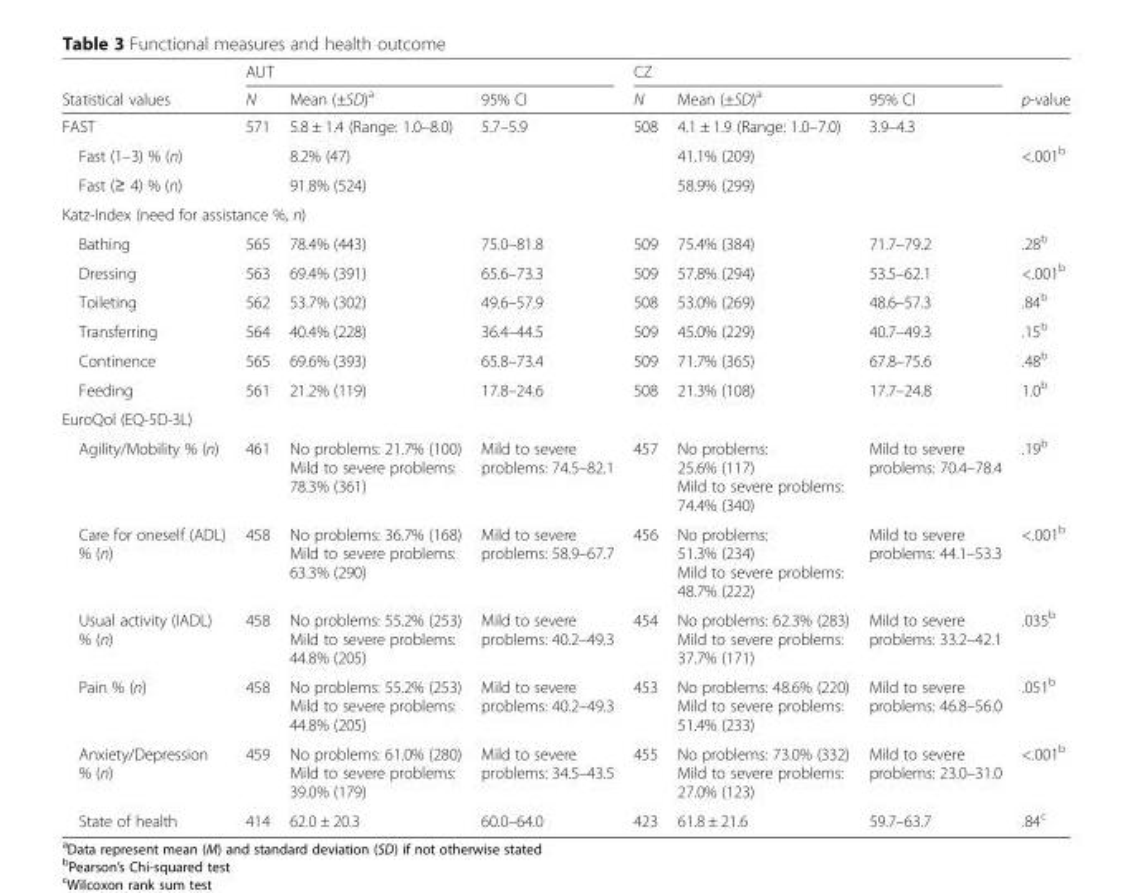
<table><thead><tr><td rowspan="2">Statistical values</td><td colspan="3">AUT</td><td colspan="3">CZ</td><td rowspan="2">p-value</td></tr><tr><td>N</td><td>Mean (±SD)<sup>a</sup></td><td>95% CI</td><td>N</td><td>Mean (±SD)<sup>a</sup></td><td>95% CI</td></tr></thead><tbody><tr><td>FAST</td><td>571</td><td>5.8 ± 1.4 (Range: 1.0–8.0)</td><td>5.7–5.9</td><td>508</td><td>4.1 ± 1.9 (Range: 1.0–7.0)</td><td>3.9–4.3</td><td></td></tr><tr><td>Fast (1–3) % (n)</td><td></td><td>8.2% (47)</td><td></td><td></td><td>41.1% (209)</td><td></td><td rowspan="2">&lt;.001<sup>b</sup></td></tr><tr><td>Fast (≥ 4) % (n)</td><td></td><td>91.8% (524)</td><td></td><td></td><td>58.9% (299)</td><td></td></tr><tr><td colspan="8">Katz-Index (need for assistance %, n)</td></tr><tr><td>Bathing</td><td>565</td><td>78.4% (443)</td><td>75.0–81.8</td><td>509</td><td>75.4% (384)</td><td>71.7–79.2</td><td>.28<sup>b</sup></td></tr><tr><td>Dressing</td><td>563</td><td>69.4% (391)</td><td>65.6–73.3</td><td>509</td><td>57.8% (294)</td><td>53.5–62.1</td><td>&lt;.001<sup>b</sup></td></tr><tr><td>Toileting</td><td>562</td><td>53.7% (302)</td><td>49.6–57.9</td><td>508</td><td>53.0% (269)</td><td>48.6–57.3</td><td>.84<sup>b</sup></td></tr><tr><td>Transferring</td><td>564</td><td>40.4% (228)</td><td>36.4–44.5</td><td>509</td><td>45.0% (229)</td><td>40.7–49.3</td><td>.15<sup>b</sup></td></tr><tr><td>Continence</td><td>565</td><td>69.6% (393)</td><td>65.8–73.4</td><td>509</td><td>71.7% (365)</td><td>67.8–75.6</td><td>.48<sup>b</sup></td></tr><tr><td>Feeding</td><td>561</td><td>21.2% (119)</td><td>17.8–24.6</td><td>508</td><td>21.3% (108)</td><td>17.7–24.8</td><td>1.0<sup>b</sup></td></tr><tr><td colspan="8">EuroQol (EQ-5D-3L)</td></tr><tr><td>Agility/Mobility % (n)</td><td>461</td><td>No problems: 21.7% (100) Mild to severe problems: 78.3% (361)</td><td>Mild to severe problems: 74.5–82.1</td><td>457</td><td>No problems: 25.6% (117) Mild to severe problems: 74.4% (340)</td><td>Mild to severe problems: 70.4–78.4</td><td>.19<sup>b</sup></td></tr><tr><td>Care for oneself (ADL) % (n)</td><td>458</td><td>No problems: 36.7% (168) Mild to severe problems: 63.3% (290)</td><td>Mild to severe problems: 58.9–67.7</td><td>456</td><td>No problems: 51.3% (234) Mild to severe problems: 48.7% (222)</td><td>Mild to severe problems: 44.1–53.3</td><td>&lt;.001<sup>b</sup></td></tr><tr><td>Usual activity (IADL) % (n)</td><td>458</td><td>No problems: 55.2% (253) Mild to severe problems: 44.8% (205)</td><td>Mild to severe problems: 40.2–49.3</td><td>454</td><td>No problems: 62.3% (283) Mild to severe problems: 37.7% (171)</td><td>Mild to severe problems: 33.2–42.1</td><td>.035<sup>b</sup></td></tr><tr><td>Pain % (n)</td><td>458</td><td>No problems: 55.2% (253) Mild to severe problems: 44.8% (205)</td><td>Mild to severe problems: 40.2–49.3</td><td>453</td><td>No problems: 48.6% (220) Mild to severe problems: 51.4% (233)</td><td>Mild to severe problems: 46.8–56.0</td><td>.051<sup>b</sup></td></tr><tr><td>Anxiety/Depression % (n)</td><td>459</td><td>No problems: 61.0% (280) Mild to severe problems: 39.0% (179)</td><td>Mild to severe problems: 34.5–43.5</td><td>455</td><td>No problems: 73.0% (332) Mild to severe problems: 27.0% (123)</td><td>Mild to severe problems: 23.0–31.0</td><td>&lt;.001<sup>b</sup></td></tr><tr><td>State of health</td><td>414</td><td>62.0 ± 20.3</td><td>60.0–64.0</td><td>423</td><td>61.8 ± 21.6</td><td>59.7–63.7</td><td>.84<sup>c</sup></td></tr></tbody></table>